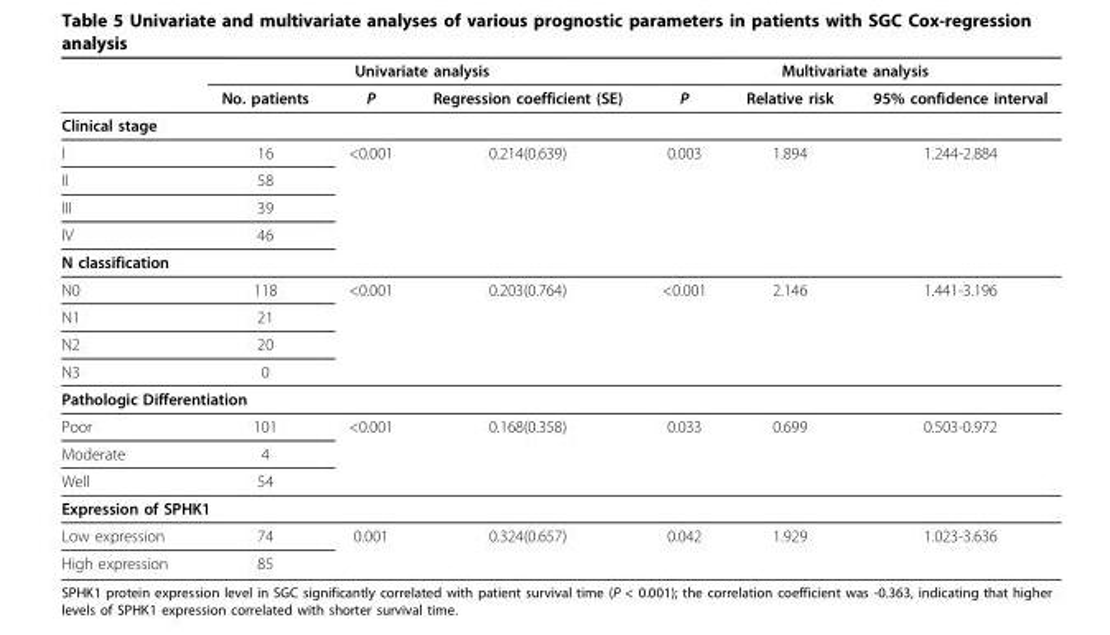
<table><thead><tr><td rowspan="2"></td><td colspan="3">Univariate analysis</td><td colspan="3">Multivariate analysis</td></tr><tr><td>No. patients</td><td>P</td><td>Regression coefficient (SE)</td><td>P</td><td>Relative risk</td><td>95% confidence interval</td></tr></thead><tbody><tr><td colspan="7">Clinical stage</td></tr><tr><td>I</td><td>16</td><td>&lt;0.001</td><td>0.214(0.639)</td><td>0.003</td><td>1.894</td><td>1.244-2.884</td></tr><tr><td>II</td><td>58</td><td></td><td></td><td></td><td></td><td></td></tr><tr><td>III</td><td>39</td><td></td><td></td><td></td><td></td><td></td></tr><tr><td>IV</td><td>46</td><td></td><td></td><td></td><td></td><td></td></tr><tr><td colspan="7">N classification</td></tr><tr><td>N0</td><td>118</td><td>&lt;0.001</td><td>0.203(0.764)</td><td>&lt;0.001</td><td>2.146</td><td>1.441-3.196</td></tr><tr><td>N1</td><td>21</td><td></td><td></td><td></td><td></td><td></td></tr><tr><td>N2</td><td>20</td><td></td><td></td><td></td><td></td><td></td></tr><tr><td>N3</td><td>0</td><td></td><td></td><td></td><td></td><td></td></tr><tr><td colspan="7">Pathologic Differentiation</td></tr><tr><td>Poor</td><td>101</td><td>&lt;0.001</td><td>0.168(0.358)</td><td>0.033</td><td>0.699</td><td>0.503-0.972</td></tr><tr><td>Moderate</td><td>4</td><td></td><td></td><td></td><td></td><td></td></tr><tr><td>Well</td><td>54</td><td></td><td></td><td></td><td></td><td></td></tr><tr><td colspan="7">Expression of SPHK1</td></tr><tr><td>Low expression</td><td>74</td><td>0.001</td><td>0.324(0.657)</td><td>0.042</td><td>1.929</td><td>1.023-3.636</td></tr><tr><td>High expression</td><td>85</td><td></td><td></td><td></td><td></td><td></td></tr></tbody></table>